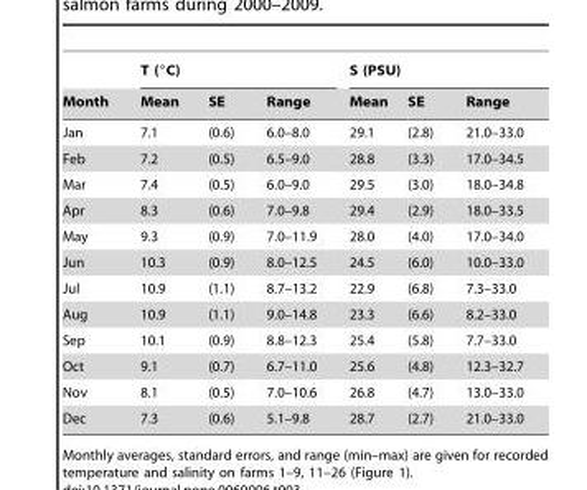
<table><thead><tr><td rowspan="2">Month</td><td colspan="3">T (°C)</td><td colspan="3">S (PSU)</td></tr><tr><td>Mean</td><td>SE</td><td>Range</td><td>Mean</td><td>SE</td><td>Range</td></tr></thead><tbody><tr><td>Jan</td><td>7.1</td><td>(0.6)</td><td>6.0–8.0</td><td>29.1</td><td>(2.8)</td><td>21.0–33.0</td></tr><tr><td>Feb</td><td>7.2</td><td>(0.5)</td><td>6.5–9.0</td><td>28.8</td><td>(3.3)</td><td>17.0–34.5</td></tr><tr><td>Mar</td><td>7.4</td><td>(0.5)</td><td>6.0–9.0</td><td>29.5</td><td>(3.0)</td><td>18.0–34.8</td></tr><tr><td>Apr</td><td>8.3</td><td>(0.6)</td><td>7.0–9.8</td><td>29.4</td><td>(2.9)</td><td>18.0–33.5</td></tr><tr><td>May</td><td>9.3</td><td>(0.9)</td><td>7.0–11.9</td><td>28.0</td><td>(4.0)</td><td>17.0–34.0</td></tr><tr><td>Jun</td><td>10.3</td><td>(0.9)</td><td>8.0–12.5</td><td>24.5</td><td>(6.0)</td><td>10.0–33.0</td></tr><tr><td>Jul</td><td>10.9</td><td>(1.1)</td><td>8.7–13.2</td><td>22.9</td><td>(6.8)</td><td>7.3–33.0</td></tr><tr><td>Aug</td><td>10.9</td><td>(1.1)</td><td>9.0–14.8</td><td>23.3</td><td>(6.6)</td><td>8.2–33.0</td></tr><tr><td>Sep</td><td>10.1</td><td>(0.9)</td><td>8.8–12.3</td><td>25.4</td><td>(5.8)</td><td>7.7–33.0</td></tr><tr><td>Oct</td><td>9.1</td><td>(0.7)</td><td>6.7–11.0</td><td>25.6</td><td>(4.8)</td><td>12.3–32.7</td></tr><tr><td>Nov</td><td>8.1</td><td>(0.5)</td><td>7.0–10.6</td><td>26.8</td><td>(4.7)</td><td>13.0–33.0</td></tr><tr><td>Dec</td><td>7.3</td><td>(0.6)</td><td>5.1–9.8</td><td>28.7</td><td>(2.7)</td><td>21.0–33.0</td></tr></tbody></table>